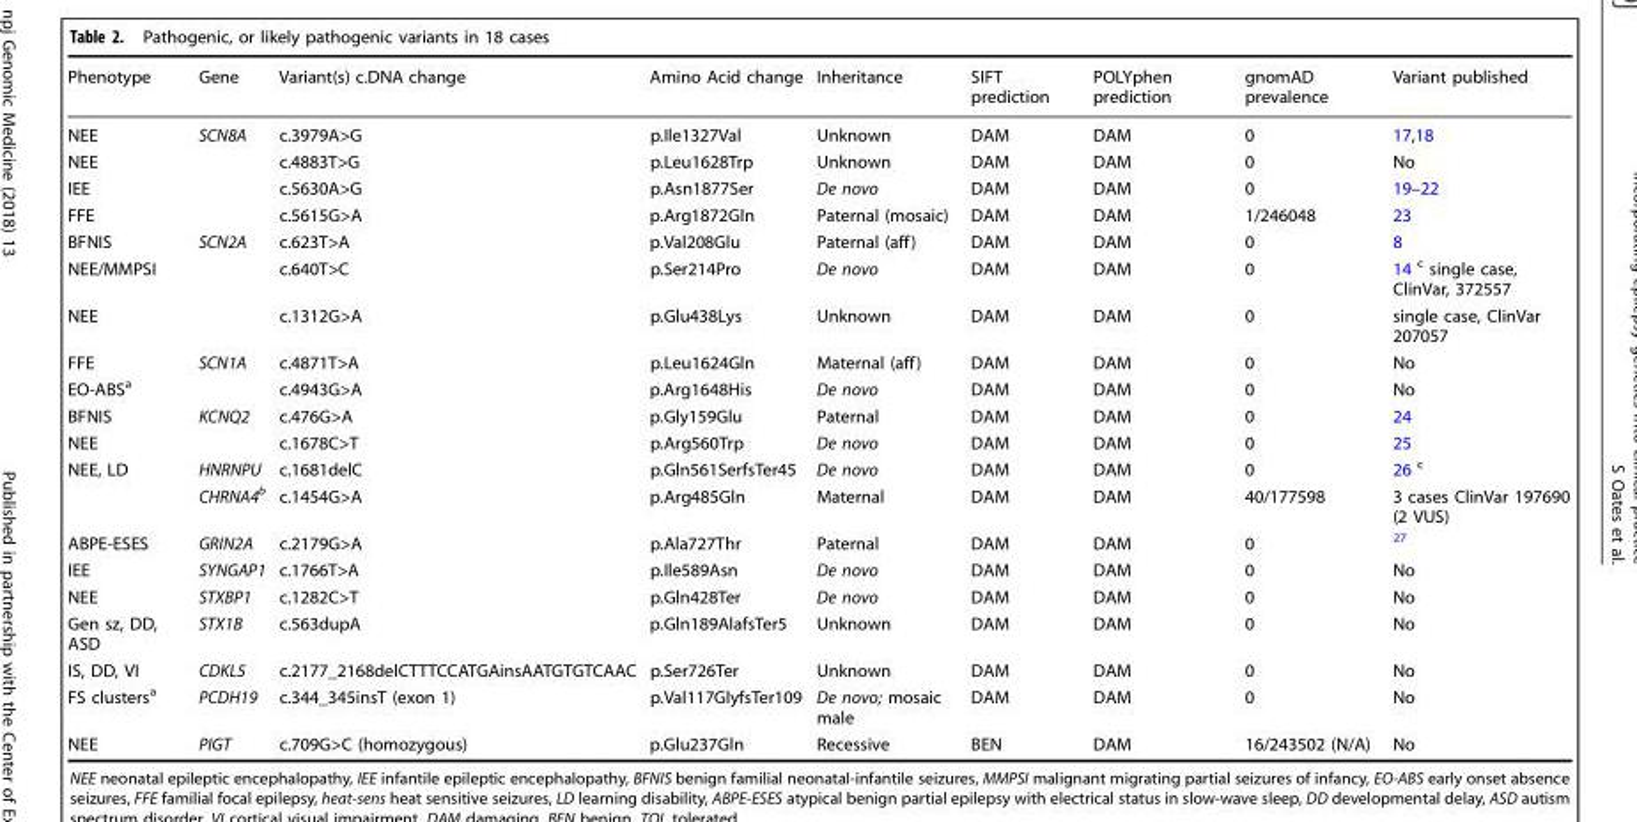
<table><thead><tr><td>Phenotype</td><td>Gene</td><td>Variant(s) c.DNA change</td><td>Amino Acid change</td><td>Inheritance</td><td>SIFT prediction</td><td>POLYphen prediction</td><td>gnomAD prevalence</td><td>Variant published</td></tr></thead><tbody><tr><td>NEE</td><td>SCN8A</td><td>c.3979A&gt;G</td><td>p.Ile1327Val</td><td>Unknown</td><td>DAM</td><td>DAM</td><td>0</td><td>17,18</td></tr><tr><td>NEE</td><td></td><td>c.4883T&gt;G</td><td>p.Leu1628Trp</td><td>Unknown</td><td>DAM</td><td>DAM</td><td>0</td><td>No</td></tr><tr><td>IEE</td><td></td><td>c.5630A&gt;G</td><td>p.Asn1877Ser</td><td>De novo</td><td>DAM</td><td>DAM</td><td>0</td><td>19–22</td></tr><tr><td>FFE</td><td></td><td>c.5615G&gt;A</td><td>p.Arg1872Gln</td><td>Paternal (mosaic)</td><td>DAM</td><td>DAM</td><td>1/246048</td><td>23</td></tr><tr><td>BFNIS</td><td>SCN2A</td><td>c.623T&gt;A</td><td>p.Val208Glu</td><td>Paternal (aff)</td><td>DAM</td><td>DAM</td><td>0</td><td>8</td></tr><tr><td>NEE/MMPSI</td><td></td><td>c.640T&gt;C</td><td>p.Ser214Pro</td><td>De novo</td><td>DAM</td><td>DAM</td><td>0</td><td>14 <sup>c</sup> single case, ClinVar, 372557</td></tr><tr><td>NEE</td><td></td><td>c.1312G&gt;A</td><td>p.Glu438Lys</td><td>Unknown</td><td>DAM</td><td>DAM</td><td>0</td><td>single case, ClinVar 207057</td></tr><tr><td>FFE</td><td>SCN1A</td><td>c.4871T&gt;A</td><td>p.Leu1624Gln</td><td>Maternal (aff)</td><td>DAM</td><td>DAM</td><td>0</td><td>No</td></tr><tr><td>EO-ABS<sup>a</sup></td><td></td><td>c.4943G&gt;A</td><td>p.Arg1648His</td><td>De novo</td><td>DAM</td><td>DAM</td><td>0</td><td>No</td></tr><tr><td>BFNIS</td><td>KCNQ2</td><td>c.476G&gt;A</td><td>p.Gly159Glu</td><td>Paternal</td><td>DAM</td><td>DAM</td><td>0</td><td>24</td></tr><tr><td>NEE</td><td></td><td>c.1678C&gt;T</td><td>p.Arg560Trp</td><td>De novo</td><td>DAM</td><td>DAM</td><td>0</td><td>25</td></tr><tr><td rowspan="2">NEE, LD</td><td>HNRNPU</td><td>c.1681delC</td><td>p.Gln561SerfsTer45</td><td>De novo</td><td>DAM</td><td>DAM</td><td>0</td><td>26 <sup>c</sup></td></tr><tr><td>CHRNA4<sup>b</sup></td><td>c.1454G&gt;A</td><td>p.Arg485Gln</td><td>Maternal</td><td>DAM</td><td>DAM</td><td>40/177598</td><td>3 cases ClinVar 197690 (2 VUS)</td></tr><tr><td>ABPE-ESES</td><td>GRIN2A</td><td>c.2179G&gt;A</td><td>p.Ala727Thr</td><td>Paternal</td><td>DAM</td><td>DAM</td><td>0</td><td><sup>27</sup></td></tr><tr><td>IEE</td><td>SYNGAP1</td><td>c.1766T&gt;A</td><td>p.Ile589Asn</td><td>De novo</td><td>DAM</td><td>DAM</td><td>0</td><td>No</td></tr><tr><td>NEE</td><td>STXBP1</td><td>c.1282C&gt;T</td><td>p.Gln428Ter</td><td>De novo</td><td>DAM</td><td>DAM</td><td>0</td><td>No</td></tr><tr><td>Gen sz, DD, ASD</td><td>STX1B</td><td>c.563dupA</td><td>p.Gln189AlafsTer5</td><td>Unknown</td><td>DAM</td><td>DAM</td><td>0</td><td>No</td></tr><tr><td>IS, DD, VI</td><td>CDKL5</td><td>c.2177_2168delCTTTCCATGAinsAATGTGTCAAC</td><td>p.Ser726Ter</td><td>Unknown</td><td>DAM</td><td>DAM</td><td>0</td><td>No</td></tr><tr><td>FS clusters<sup>a</sup></td><td>PCDH19</td><td>c.344_345insT (exon 1)</td><td>p.Val117GlyfsTer109</td><td>De novo; mosaic male</td><td>DAM</td><td>DAM</td><td>0</td><td>No</td></tr><tr><td>NEE</td><td>PIGT</td><td>c.709G&gt;C (homozygous)</td><td>p.Glu237Gln</td><td>Recessive</td><td>BEN</td><td>DAM</td><td>16/243502 (N/A)</td><td>No</td></tr></tbody></table>